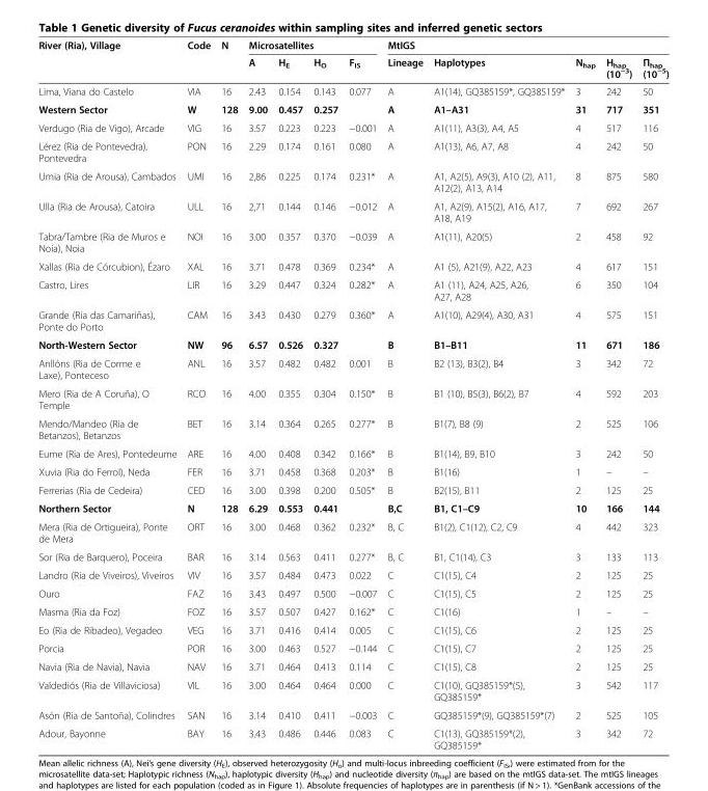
<table><thead><tr><td rowspan="2">River (Ria), Village</td><td rowspan="2">Code</td><td rowspan="2">N</td><td colspan="4">Microsatellites</td><td colspan="5">MtIGS</td></tr><tr><td>A</td><td>H<sub>E</sub></td><td>H<sub>O</sub></td><td>F<sub>IS</sub></td><td>Lineage</td><td>Haplotypes</td><td>N<sub>hap</sub></td><td>H<sub>hap</sub> (10<sup>−3</sup>)</td><td>Π<sub>hap</sub> (10<sup>−5</sup>)</td></tr></thead><tbody><tr><td>Lima, Viana do Castelo</td><td>VIA</td><td>16</td><td>2.43</td><td>0.154</td><td>0.143</td><td>0.077</td><td>A</td><td>A1(14), GQ385159*, GQ385159*</td><td>3</td><td>242</td><td>50</td></tr><tr><td>Western Sector</td><td>W</td><td>128</td><td>9.00</td><td>0.457</td><td>0.257</td><td></td><td>A</td><td>A1–A31</td><td>31</td><td>717</td><td>351</td></tr><tr><td>Verdugo (Ria de Vigo), Arcade</td><td>VIG</td><td>16</td><td>3.57</td><td>0.223</td><td>0.223</td><td>−0.001</td><td>A</td><td>A1(11), A3(3), A4, A5</td><td>4</td><td>517</td><td>116</td></tr><tr><td>Lérez (Ria de Pontevedra), Pontevedra</td><td>PON</td><td>16</td><td>2.29</td><td>0.174</td><td>0.161</td><td>0.080</td><td>A</td><td>A1(13), A6, A7, A8</td><td>4</td><td>242</td><td>50</td></tr><tr><td>Umia (Ria de Arousa), Cambados</td><td>UMI</td><td>16</td><td>2,86</td><td>0.225</td><td>0.174</td><td>0.231*</td><td>A</td><td>A1, A2(5), A9(3), A10 (2), A11, A12(2), A13, A14</td><td>8</td><td>875</td><td>580</td></tr><tr><td>Ulla (Ria de Arousa), Catoira</td><td>ULL</td><td>16</td><td>2,71</td><td>0.144</td><td>0.146</td><td>−0.012</td><td>A</td><td>A1, A2(9), A15(2), A16, A17, A18, A19</td><td>7</td><td>692</td><td>267</td></tr><tr><td>Tabra/Tambre (Ria de Muros e Noia), Noia</td><td>NOI</td><td>16</td><td>3.00</td><td>0.357</td><td>0.370</td><td>−0.039</td><td>A</td><td>A1(11), A20(5)</td><td>2</td><td>458</td><td>92</td></tr><tr><td>Xallas (Ria de Córcubion), Ézaro</td><td>XAL</td><td>16</td><td>3.71</td><td>0.478</td><td>0.369</td><td>0.234*</td><td>A</td><td>A1 (5), A21(9), A22, A23</td><td>4</td><td>617</td><td>151</td></tr><tr><td>Castro, Lires</td><td>LIR</td><td>16</td><td>3.29</td><td>0.447</td><td>0.324</td><td>0.282*</td><td>A</td><td>A1 (11), A24, A25, A26, A27, A28</td><td>6</td><td>350</td><td>104</td></tr><tr><td>Grande (Ria das Camariñas), Ponte do Porto</td><td>CAM</td><td>16</td><td>3.43</td><td>0.430</td><td>0.279</td><td>0.360*</td><td>A</td><td>A1(10), A29(4), A30, A31</td><td>4</td><td>575</td><td>151</td></tr><tr><td>North-Western Sector</td><td>NW</td><td>96</td><td>6.57</td><td>0.526</td><td>0.327</td><td></td><td>B</td><td>B1–B11</td><td>11</td><td>671</td><td>186</td></tr><tr><td>Anllóns (Ria de Corme e Laxe), Ponteceso</td><td>ANL</td><td>16</td><td>3.57</td><td>0.482</td><td>0.482</td><td>0.001</td><td>B</td><td>B2 (13), B3(2), B4</td><td>3</td><td>342</td><td>72</td></tr><tr><td>Mero (Ria de A Coruña), O Temple</td><td>RCO</td><td>16</td><td>4.00</td><td>0.355</td><td>0.304</td><td>0.150*</td><td>B</td><td>B1 (10), B5(3), B6(2), B7</td><td>4</td><td>592</td><td>203</td></tr><tr><td>Mendo/Mandeo (Ria de Betanzos), Betanzos</td><td>BET</td><td>16</td><td>3.14</td><td>0.364</td><td>0.265</td><td>0.277*</td><td>B</td><td>B1(7), B8 (9)</td><td>2</td><td>525</td><td>106</td></tr><tr><td>Eume (Ria de Ares), Pontedeume</td><td>ARE</td><td>16</td><td>4.00</td><td>0.408</td><td>0.342</td><td>0.166*</td><td>B</td><td>B1(14), B9, B10</td><td>3</td><td>242</td><td>50</td></tr><tr><td>Xuvia (Ria do Ferrol), Neda</td><td>FER</td><td>16</td><td>3.71</td><td>0.458</td><td>0.368</td><td>0.203*</td><td>B</td><td>B1(16)</td><td>1</td><td>–</td><td>–</td></tr><tr><td>Ferrerias (Ria de Cedeira)</td><td>CED</td><td>16</td><td>3.00</td><td>0.398</td><td>0.200</td><td>0.505*</td><td>B</td><td>B2(15), B11</td><td>2</td><td>125</td><td>25</td></tr><tr><td>Northern Sector</td><td>N</td><td>128</td><td>6.29</td><td>0.553</td><td>0.441</td><td></td><td>B,C</td><td>B1, C1–C9</td><td>10</td><td>166</td><td>144</td></tr><tr><td>Mera (Ria de Ortigueira), Ponte de Mera</td><td>ORT</td><td>16</td><td>3.00</td><td>0.468</td><td>0.362</td><td>0.232*</td><td>B, C</td><td>B1(2), C1(12), C2, C9</td><td>4</td><td>442</td><td>323</td></tr><tr><td>Sor (Ria de Barquero), Poceira</td><td>BAR</td><td>16</td><td>3.14</td><td>0.563</td><td>0.411</td><td>0.277*</td><td>B, C</td><td>B1, C1(14), C3</td><td>3</td><td>133</td><td>113</td></tr><tr><td>Landro (Ria de Viveiros), Viveiros</td><td>VIV</td><td>16</td><td>3.57</td><td>0.484</td><td>0.473</td><td>0.022</td><td>C</td><td>C1(15), C4</td><td>2</td><td>125</td><td>25</td></tr><tr><td>Ouro</td><td>FAZ</td><td>16</td><td>3.43</td><td>0.497</td><td>0.500</td><td>−0.007</td><td>C</td><td>C1(15), C5</td><td>2</td><td>125</td><td>25</td></tr><tr><td>Masma (Ria da Foz)</td><td>FOZ</td><td>16</td><td>3.57</td><td>0.507</td><td>0.427</td><td>0.162*</td><td>C</td><td>C1(16)</td><td>1</td><td>–</td><td>–</td></tr><tr><td>Eo (Ria de Ribadeo), Vegadeo</td><td>VEG</td><td>16</td><td>3.71</td><td>0.416</td><td>0.414</td><td>0.005</td><td>C</td><td>C1(15), C6</td><td>2</td><td>125</td><td>25</td></tr><tr><td>Porcia</td><td>POR</td><td>16</td><td>3.00</td><td>0.463</td><td>0.527</td><td>−0.144</td><td>C</td><td>C1(15), C7</td><td>2</td><td>125</td><td>25</td></tr><tr><td>Navia (Ria de Navia), Navia</td><td>NAV</td><td>16</td><td>3.71</td><td>0.464</td><td>0.413</td><td>0.114</td><td>C</td><td>C1(15), C8</td><td>2</td><td>125</td><td>25</td></tr><tr><td>Valdediós (Ria de Villaviciosa)</td><td>VIL</td><td>16</td><td>3.00</td><td>0.464</td><td>0.464</td><td>0.000</td><td>C</td><td>C1(10), GQ385159*(5), GQ385159*</td><td>3</td><td>542</td><td>117</td></tr><tr><td>Asón (Ria de Santoña), Colindres</td><td>SAN</td><td>16</td><td>3.14</td><td>0.410</td><td>0.411</td><td>−0.003</td><td>C</td><td>GQ385159*(9), GQ385159*(7)</td><td>2</td><td>525</td><td>105</td></tr><tr><td>Adour, Bayonne</td><td>BAY</td><td>16</td><td>3.43</td><td>0.486</td><td>0.446</td><td>0.083</td><td>C</td><td>C1(13), GQ385159*(2), GQ385159*</td><td>3</td><td>342</td><td>72</td></tr></tbody></table>